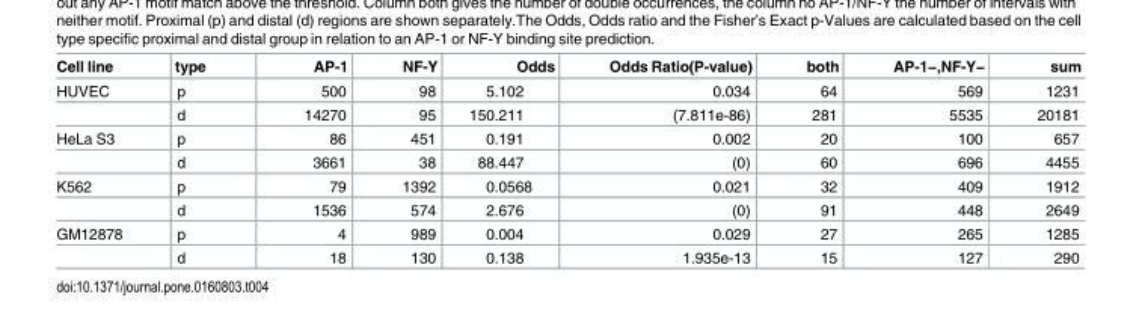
<table><thead><tr><td>Cell line</td><td>type</td><td>AP-1</td><td>NF-Y</td><td>Odds</td><td>Odds Ratio(P-value)</td><td>both</td><td>AP-1−,NF-Y−</td><td>sum</td></tr></thead><tbody><tr><td rowspan="2">HUVEC</td><td>p</td><td>500</td><td>98</td><td>5.102</td><td>0.034</td><td>64</td><td>569</td><td>1231</td></tr><tr><td>d</td><td>14270</td><td>95</td><td>150.211</td><td>(7.811e-86)</td><td>281</td><td>5535</td><td>20181</td></tr><tr><td rowspan="2">HeLa S3</td><td>p</td><td>86</td><td>451</td><td>0.191</td><td>0.002</td><td>20</td><td>100</td><td>657</td></tr><tr><td>d</td><td>3661</td><td>38</td><td>88.447</td><td>(0)</td><td>60</td><td>696</td><td>4455</td></tr><tr><td rowspan="2">K562</td><td>p</td><td>79</td><td>1392</td><td>0.0568</td><td>0.021</td><td>32</td><td>409</td><td>1912</td></tr><tr><td>d</td><td>1536</td><td>574</td><td>2.676</td><td>(0)</td><td>91</td><td>448</td><td>2649</td></tr><tr><td rowspan="2">GM12878</td><td>p</td><td>4</td><td>989</td><td>0.004</td><td>0.029</td><td>27</td><td>265</td><td>1285</td></tr><tr><td>d</td><td>18</td><td>130</td><td>0.138</td><td>1.935e-13</td><td>15</td><td>127</td><td>290</td></tr></tbody></table>